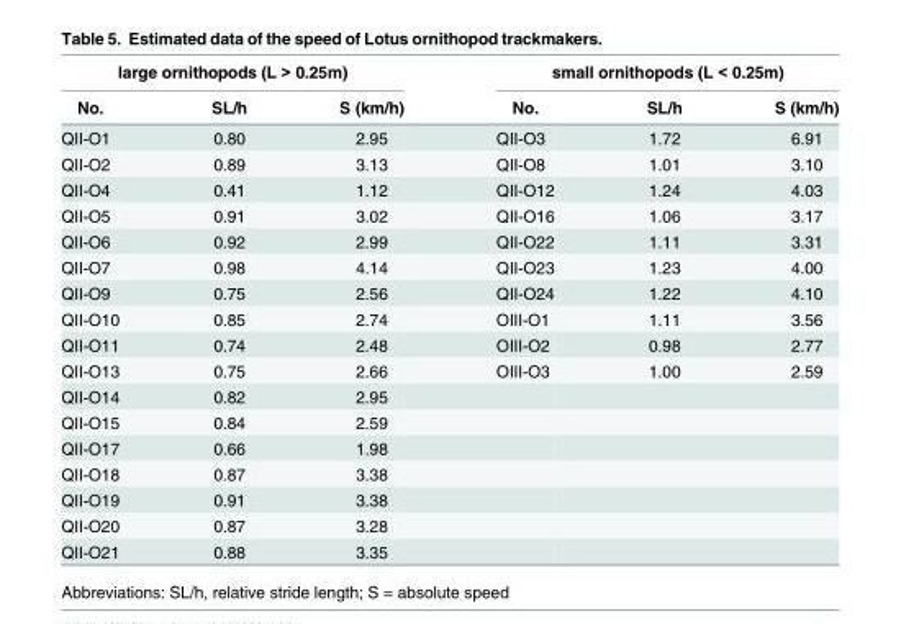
<table><thead><tr><td colspan="3">large ornithopods (L &gt; 0.25m)</td><td colspan="3">small ornithopods (L &lt; 0.25m)</td></tr><tr><td>No.</td><td>SL/h</td><td>S (km/h)</td><td>No.</td><td>SL/h</td><td>S (km/h)</td></tr></thead><tbody><tr><td>QII-O1</td><td>0.80</td><td>2.95</td><td>QII-O3</td><td>1.72</td><td>6.91</td></tr><tr><td>QII-O2</td><td>0.89</td><td>3.13</td><td>QII-O8</td><td>1.01</td><td>3.10</td></tr><tr><td>QII-O4</td><td>0.41</td><td>1.12</td><td>QII-O12</td><td>1.24</td><td>4.03</td></tr><tr><td>QII-O5</td><td>0.91</td><td>3.02</td><td>QII-O16</td><td>1.06</td><td>3.17</td></tr><tr><td>QII-O6</td><td>0.92</td><td>2.99</td><td>QII-O22</td><td>1.11</td><td>3.31</td></tr><tr><td>QII-O7</td><td>0.98</td><td>4.14</td><td>QII-O23</td><td>1.23</td><td>4.00</td></tr><tr><td>QII-O9</td><td>0.75</td><td>2.56</td><td>QII-O24</td><td>1.22</td><td>4.10</td></tr><tr><td>QII-O10</td><td>0.85</td><td>2.74</td><td>OIII-O1</td><td>1.11</td><td>3.56</td></tr><tr><td>QII-O11</td><td>0.74</td><td>2.48</td><td>OIII-O2</td><td>0.98</td><td>2.77</td></tr><tr><td>QII-O13</td><td>0.75</td><td>2.66</td><td>OIII-O3</td><td>1.00</td><td>2.59</td></tr><tr><td>QII-O14</td><td>0.82</td><td>2.95</td><td></td><td></td><td></td></tr><tr><td>QII-O15</td><td>0.84</td><td>2.59</td><td></td><td></td><td></td></tr><tr><td>QII-O17</td><td>0.66</td><td>1.98</td><td></td><td></td><td></td></tr><tr><td>QII-O18</td><td>0.87</td><td>3.38</td><td></td><td></td><td></td></tr><tr><td>QII-O19</td><td>0.91</td><td>3.38</td><td></td><td></td><td></td></tr><tr><td>QII-O20</td><td>0.87</td><td>3.28</td><td></td><td></td><td></td></tr><tr><td>QII-O21</td><td>0.88</td><td>3.35</td><td></td><td></td><td></td></tr></tbody></table>